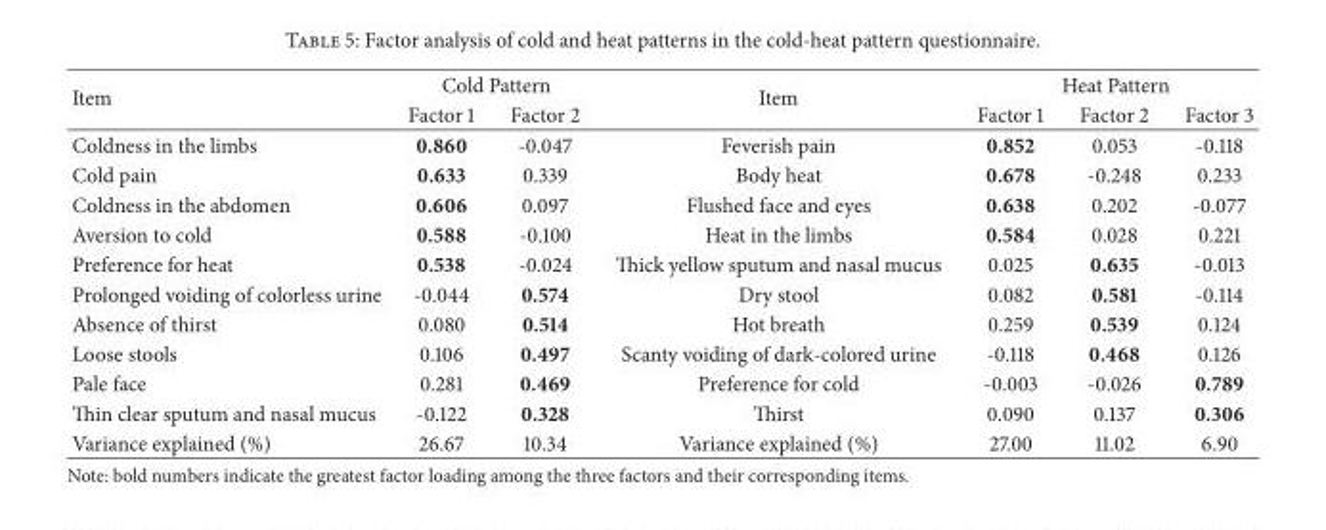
<table><thead><tr><td rowspan="2">Item</td><td colspan="2">Cold Pattern</td><td rowspan="2">Item</td><td colspan="3">Heat Pattern</td></tr><tr><td>Factor 1</td><td>Factor 2</td><td>Factor 1</td><td>Factor 2</td><td>Factor 3</td></tr></thead><tbody><tr><td>Coldness in the limbs</td><td>0.860</td><td>-0.047</td><td>Feverish pain</td><td>0.852</td><td>0.053</td><td>-0.118</td></tr><tr><td>Cold pain</td><td>0.633</td><td>0.339</td><td>Body heat</td><td>0.678</td><td>-0.248</td><td>0.233</td></tr><tr><td>Coldness in the abdomen</td><td>0.606</td><td>0.097</td><td>Flushed face and eyes</td><td>0.638</td><td>0.202</td><td>-0.077</td></tr><tr><td>Aversion to cold</td><td>0.588</td><td>-0.100</td><td>Heat in the limbs</td><td>0.584</td><td>0.028</td><td>0.221</td></tr><tr><td>Preference for heat</td><td>0.538</td><td>-0.024</td><td>Thick yellow sputum and nasal mucus</td><td>0.025</td><td>0.635</td><td>-0.013</td></tr><tr><td>Prolonged voiding of colorless urine</td><td>-0.044</td><td>0.574</td><td>Dry stool</td><td>0.082</td><td>0.581</td><td>-0.114</td></tr><tr><td>Absence of thirst</td><td>0.080</td><td>0.514</td><td>Hot breath</td><td>0.259</td><td>0.539</td><td>0.124</td></tr><tr><td>Loose stools</td><td>0.106</td><td>0.497</td><td>Scanty voiding of dark-colored urine</td><td>-0.118</td><td>0.468</td><td>0.126</td></tr><tr><td>Pale face</td><td>0.281</td><td>0.469</td><td>Preference for cold</td><td>-0.003</td><td>-0.026</td><td>0.789</td></tr><tr><td>Thin clear sputum and nasal mucus</td><td>-0.122</td><td>0.328</td><td>Thirst</td><td>0.090</td><td>0.137</td><td>0.306</td></tr><tr><td>Variance explained (%)</td><td>26.67</td><td>10.34</td><td>Variance explained (%)</td><td>27.00</td><td>11.02</td><td>6.90</td></tr></tbody></table>